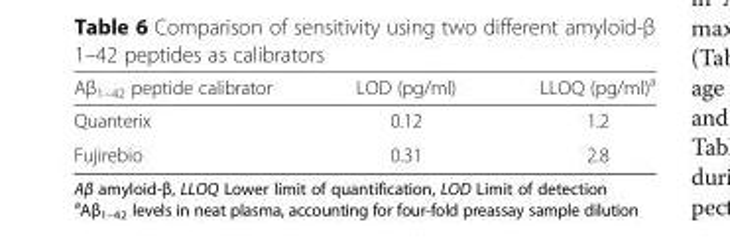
<table><thead><tr><td>Aβ<sub>1–42</sub> peptide calibrator</td><td>LOD (pg/ml)</td><td>LLOQ (pg/ml)<sup>a</sup></td></tr></thead><tbody><tr><td>Quanterix</td><td>0.12</td><td>1.2</td></tr><tr><td>Fujirebio</td><td>0.31</td><td>2.8</td></tr></tbody></table>